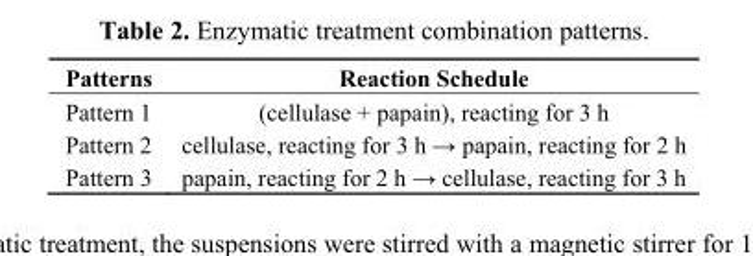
<table><thead><tr><td>Patterns</td><td>Reaction Schedule</td></tr></thead><tbody><tr><td>Pattern 1</td><td>(cellulase + papain), reacting for 3 h</td></tr><tr><td>Pattern 2</td><td>cellulase, reacting for 3 h → papain, reacting for 2 h</td></tr><tr><td>Pattern 3</td><td>papain, reacting for 2 h → cellulase, reacting for 3 h</td></tr></tbody></table>